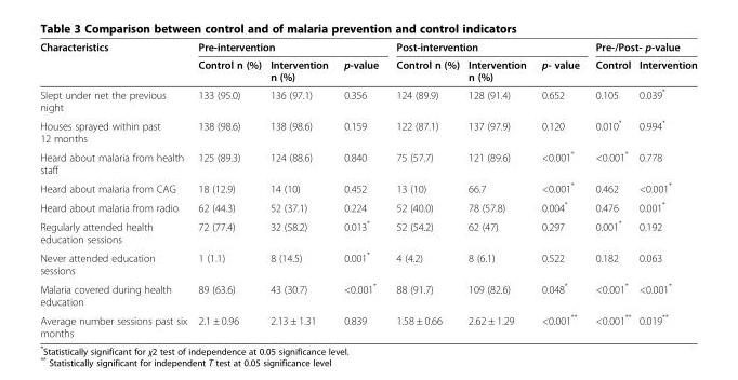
<table><thead><tr><td rowspan="2">Characteristics</td><td colspan="3">Pre-intervention</td><td colspan="3">Post-intervention</td><td colspan="2">Pre-/Post- p-value</td></tr><tr><td>Control n (%)</td><td>Intervention n (%)</td><td>p-value</td><td>Control n (%)</td><td>Intervention n (%)</td><td>p- value</td><td>Control</td><td>Intervention</td></tr></thead><tbody><tr><td>Slept under net the previous night</td><td>133 (95.0)</td><td>136 (97.1)</td><td>0.356</td><td>124 (89.9)</td><td>128 (91.4)</td><td>0.652</td><td>0.105</td><td>0.039*</td></tr><tr><td>Houses sprayed within past 12 months</td><td>138 (98.6)</td><td>138 (98.6)</td><td>0.159</td><td>122 (87.1)</td><td>137 (97.9)</td><td>0.120</td><td>0.010*</td><td>0.994*</td></tr><tr><td>Heard about malaria from health staff</td><td>125 (89.3)</td><td>124 (88.6)</td><td>0.840</td><td>75 (57.7)</td><td>121 (89.6)</td><td>&lt;0.001*</td><td>&lt;0.001*</td><td>0.778</td></tr><tr><td>Heard about malaria from CAG</td><td>18 (12.9)</td><td>14 (10)</td><td>0.452</td><td>13 (10)</td><td>66.7</td><td>&lt;0.001*</td><td>0.462</td><td>&lt;0.001*</td></tr><tr><td>Heard about malaria from radio</td><td>62 (44.3)</td><td>52 (37.1)</td><td>0.224</td><td>52 (40.0)</td><td>78 (57.8)</td><td>0.004*</td><td>0.476</td><td>0.001*</td></tr><tr><td>Regularly attended health education sessions</td><td>72 (77.4)</td><td>32 (58.2)</td><td>0.013*</td><td>52 (54.2)</td><td>62 (47)</td><td>0.297</td><td>0.001*</td><td>0.192</td></tr><tr><td>Never attended education sessions</td><td>1 (1.1)</td><td>8 (14.5)</td><td>0.001*</td><td>4 (4.2)</td><td>8 (6.1)</td><td>0.522</td><td>0.182</td><td>0.063</td></tr><tr><td>Malaria covered during health education</td><td>89 (63.6)</td><td>43 (30.7)</td><td>&lt;0.001*</td><td>88 (91.7)</td><td>109 (82.6)</td><td>0.048*</td><td>&lt;0.001*</td><td>&lt;0.001*</td></tr><tr><td>Average number sessions past six months</td><td>2.1 ± 0.96</td><td>2.13 ± 1.31</td><td>0.839</td><td>1.58 ± 0.66</td><td>2.62 ± 1.29</td><td>&lt;0.001**</td><td>&lt;0.001**</td><td>0.019**</td></tr></tbody></table>